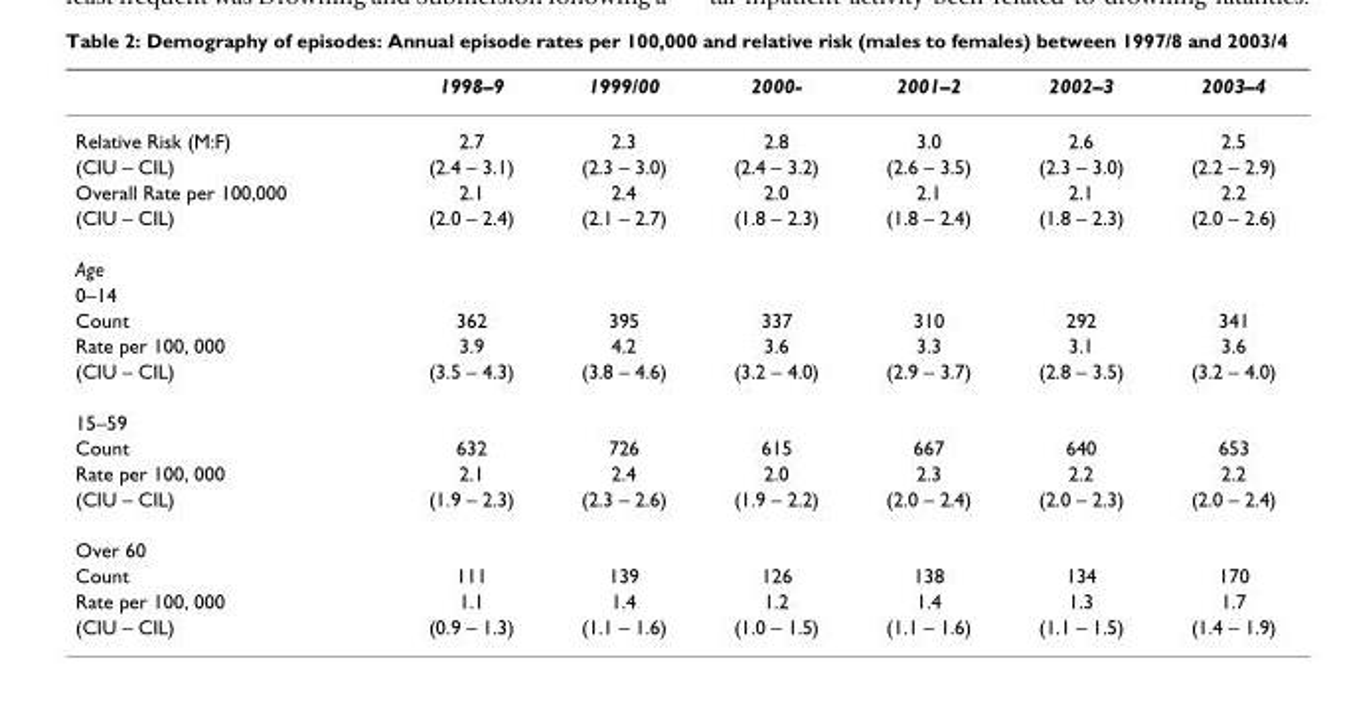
<table><thead><tr><td></td><td>1998–9</td><td>1999/00</td><td>2000-</td><td>2001–2</td><td>2002–3</td><td>2003–4</td></tr></thead><tbody><tr><td>Relative Risk (M:F)</td><td>2.7</td><td>2.3</td><td>2.8</td><td>3.0</td><td>2.6</td><td>2.5</td></tr><tr><td>(CIU – CIL)</td><td>(2.4 – 3.1)</td><td>(2.3 – 3.0)</td><td>(2.4 – 3.2)</td><td>(2.6 – 3.5)</td><td>(2.3 – 3.0)</td><td>(2.2 – 2.9)</td></tr><tr><td>Overall Rate per 100,000</td><td>2.1</td><td>2.4</td><td>2.0</td><td>2.1</td><td>2.1</td><td>2.2</td></tr><tr><td>(CIU – CIL)</td><td>(2.0 – 2.4)</td><td>(2.1 – 2.7)</td><td>(1.8 – 2.3)</td><td>(1.8 – 2.4)</td><td>(1.8 – 2.3)</td><td>(2.0 – 2.6)</td></tr><tr><td colspan="7">Age</td></tr><tr><td colspan="7">0–14</td></tr><tr><td>Count</td><td>362</td><td>395</td><td>337</td><td>310</td><td>292</td><td>341</td></tr><tr><td>Rate per 100, 000</td><td>3.9</td><td>4.2</td><td>3.6</td><td>3.3</td><td>3.1</td><td>3.6</td></tr><tr><td>(CIU – CIL)</td><td>(3.5 – 4.3)</td><td>(3.8 – 4.6)</td><td>(3.2 – 4.0)</td><td>(2.9 – 3.7)</td><td>(2.8 – 3.5)</td><td>(3.2 – 4.0)</td></tr><tr><td colspan="7">15–59</td></tr><tr><td>Count</td><td>632</td><td>726</td><td>615</td><td>667</td><td>640</td><td>653</td></tr><tr><td>Rate per 100, 000</td><td>2.1</td><td>2.4</td><td>2.0</td><td>2.3</td><td>2.2</td><td>2.2</td></tr><tr><td>(CIU – CIL)</td><td>(1.9 – 2.3)</td><td>(2.3 – 2.6)</td><td>(1.9 – 2.2)</td><td>(2.0 – 2.4)</td><td>(2.0 – 2.3)</td><td>(2.0 – 2.4)</td></tr><tr><td colspan="7">Over 60</td></tr><tr><td>Count</td><td>111</td><td>139</td><td>126</td><td>138</td><td>134</td><td>170</td></tr><tr><td>Rate per 100, 000</td><td>1.1</td><td>1.4</td><td>1.2</td><td>1.4</td><td>1.3</td><td>1.7</td></tr><tr><td>(CIU – CIL)</td><td>(0.9 – 1.3)</td><td>(1.1 – 1.6)</td><td>(1.0 – 1.5)</td><td>(1.1 – 1.6)</td><td>(1.1 – 1.5)</td><td>(1.4 – 1.9)</td></tr></tbody></table>